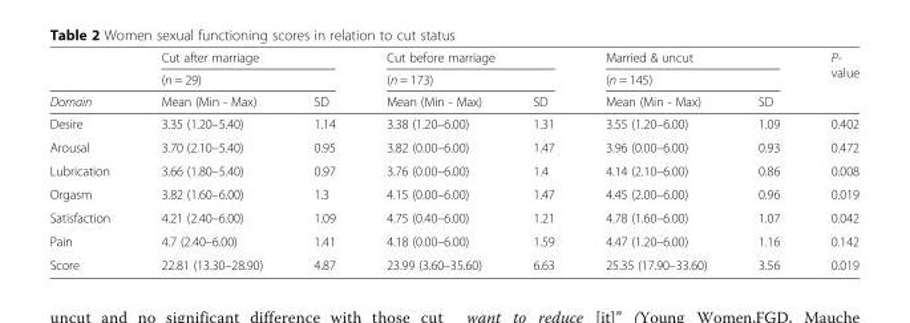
<table><thead><tr><td rowspan="3">Domain</td><td rowspan="2" colspan="2">Cut after marriage (n = 29)</td><td rowspan="2" colspan="2">Cut before marriage (n = 173)</td><td rowspan="2" colspan="2">Married &amp; uncut (n = 145)</td><td rowspan="3">P- value</td></tr><tr></tr><tr><td>Mean (Min - Max)</td><td>SD</td><td>Mean (Min - Max)</td><td>SD</td><td>Mean (Min - Max)</td><td>SD</td></tr></thead><tbody><tr><td>Desire</td><td>3.35 (1.20–5.40)</td><td>1.14</td><td>3.38 (1.20–6.00)</td><td>1.31</td><td>3.55 (1.20–6.00)</td><td>1.09</td><td>0.402</td></tr><tr><td>Arousal</td><td>3.70 (2.10–5.40)</td><td>0.95</td><td>3.82 (0.00–6.00)</td><td>1.47</td><td>3.96 (0.00–6.00)</td><td>0.93</td><td>0.472</td></tr><tr><td>Lubrication</td><td>3.66 (1.80–5.40)</td><td>0.97</td><td>3.76 (0.00–6.00)</td><td>1.4</td><td>4.14 (2.10–6.00)</td><td>0.86</td><td>0.008</td></tr><tr><td>Orgasm</td><td>3.82 (1.60–6.00)</td><td>1.3</td><td>4.15 (0.00–6.00)</td><td>1.47</td><td>4.45 (2.00–6.00)</td><td>0.96</td><td>0.019</td></tr><tr><td>Satisfaction</td><td>4.21 (2.40–6.00)</td><td>1.09</td><td>4.75 (0.40–6.00)</td><td>1.21</td><td>4.78 (1.60–6.00)</td><td>1.07</td><td>0.042</td></tr><tr><td>Pain</td><td>4.7 (2.40–6.00)</td><td>1.41</td><td>4.18 (0.00–6.00)</td><td>1.59</td><td>4.47 (1.20–6.00)</td><td>1.16</td><td>0.142</td></tr><tr><td>Score</td><td>22.81 (13.30–28.90)</td><td>4.87</td><td>23.99 (3.60–35.60)</td><td>6.63</td><td>25.35 (17.90–33.60)</td><td>3.56</td><td>0.019</td></tr></tbody></table>